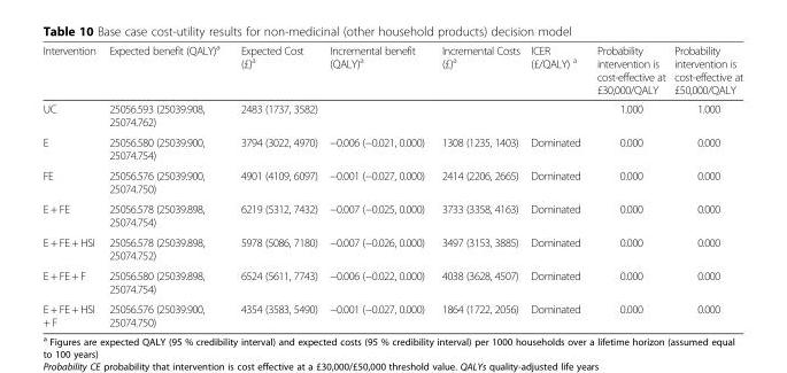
<table><thead><tr><td>Intervention</td><td>Expected benefit (QALY)<sup>a</sup></td><td>Expected Cost (£)<sup>a</sup></td><td>Incremental benefit (QALY)<sup>a</sup></td><td>Incremental Costs (£)<sup>a</sup></td><td>ICER (£/QALY) <sup>a</sup></td><td>Probability intervention is cost-effective at £30,000/QALY</td><td>Probability intervention is cost-effective at £50,000/QALY</td></tr></thead><tbody><tr><td>UC</td><td>25056.593 (25039.908, 25074.762)</td><td>2483 (1737, 3582)</td><td></td><td></td><td></td><td>1.000</td><td>1.000</td></tr><tr><td>E</td><td>25056.580 (25039.900, 25074.754)</td><td>3794 (3022, 4970)</td><td>−0.006 (−0.021, 0.000)</td><td>1308 (1235, 1403)</td><td>Dominated</td><td>0.000</td><td>0.000</td></tr><tr><td>FE</td><td>25056.576 (25039.900, 25074.750)</td><td>4901 (4109, 6097)</td><td>−0.001 (−0.027, 0.000)</td><td>2414 (2206, 2665)</td><td>Dominated</td><td>0.000</td><td>0.000</td></tr><tr><td>E + FE</td><td>25056.578 (25039.898, 25074.754)</td><td>6219 (5312, 7432)</td><td>−0.007 (−0.025, 0.000)</td><td>3733 (3358, 4163)</td><td>Dominated</td><td>0.000</td><td>0.000</td></tr><tr><td>E + FE + HSI</td><td>25056.578 (25039.898, 25074.752)</td><td>5978 (5086, 7180)</td><td>−0.007 (−0.026, 0.000)</td><td>3497 (3153, 3885)</td><td>Dominated</td><td>0.000</td><td>0.000</td></tr><tr><td>E + FE + F</td><td>25056.580 (25039.898, 25074.754)</td><td>6524 (5611, 7743)</td><td>−0.006 (−0.022, 0.000)</td><td>4038 (3628, 4507)</td><td>Dominated</td><td>0.000</td><td>0.000</td></tr><tr><td>E + FE + HSI + F</td><td>25056.576 (25039.900, 25074.750)</td><td>4354 (3583, 5490)</td><td>−0.001 (−0.027, 0.000)</td><td>1864 (1722, 2056)</td><td>Dominated</td><td>0.000</td><td>0.000</td></tr></tbody></table>